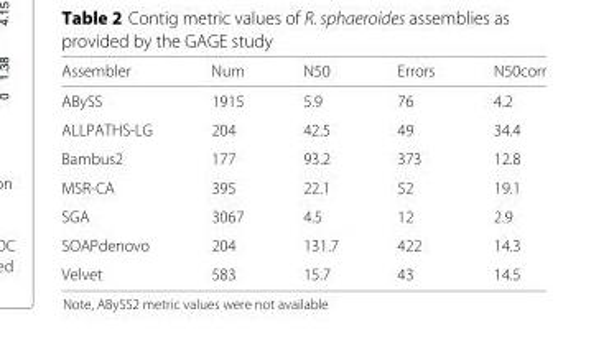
<table><thead><tr><td>Assembler</td><td>Num</td><td>N50</td><td>Errors</td><td>N50corr</td></tr></thead><tbody><tr><td>ABySS</td><td>1915</td><td>5.9</td><td>76</td><td>4.2</td></tr><tr><td>ALLPATHS-LG</td><td>204</td><td>42.5</td><td>49</td><td>34.4</td></tr><tr><td>Bambus2</td><td>177</td><td>93.2</td><td>373</td><td>12.8</td></tr><tr><td>MSR-CA</td><td>395</td><td>22.1</td><td>52</td><td>19.1</td></tr><tr><td>SGA</td><td>3067</td><td>4.5</td><td>12</td><td>2.9</td></tr><tr><td>SOAPdenovo</td><td>204</td><td>131.7</td><td>422</td><td>14.3</td></tr><tr><td>Velvet</td><td>583</td><td>15.7</td><td>43</td><td>14.5</td></tr></tbody></table>